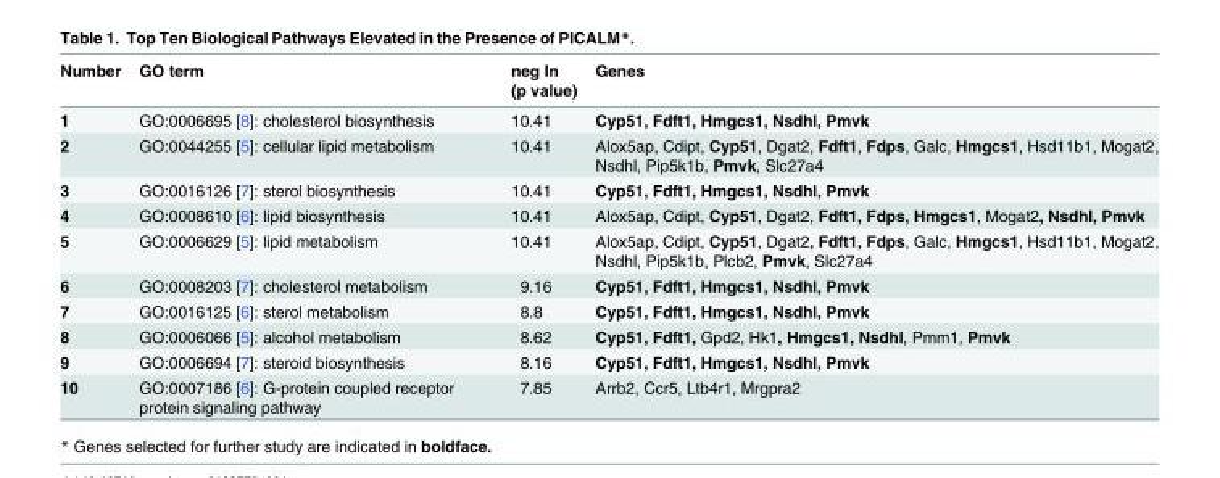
<table><thead><tr><td>Number</td><td>GO term</td><td>neg ln (p value)</td><td>Genes</td></tr></thead><tbody><tr><td>1</td><td>GO:0006695 [8]: cholesterol biosynthesis</td><td>10.41</td><td>Cyp51, Fdft1, Hmgcs1, Nsdhl, Pmvk</td></tr><tr><td>2</td><td>GO:0044255 [5]: cellular lipid metabolism</td><td>10.41</td><td>Alox5ap, Cdipt, Cyp51, Dgat2, Fdft1, Fdps, Galc, Hmgcs1, Hsd11b1, Mogat2, Nsdhl, Pip5k1b, Pmvk, Slc27a4</td></tr><tr><td>3</td><td>GO:0016126 [7]: sterol biosynthesis</td><td>10.41</td><td>Cyp51, Fdft1, Hmgcs1, Nsdhl, Pmvk</td></tr><tr><td>4</td><td>GO:0008610 [6]: lipid biosynthesis</td><td>10.41</td><td>Alox5ap, Cdipt, Cyp51, Dgat2, Fdft1, Fdps, Hmgcs1, Mogat2, Nsdhl, Pmvk</td></tr><tr><td>5</td><td>GO:0006629 [5]: lipid metabolism</td><td>10.41</td><td>Alox5ap, Cdipt, Cyp51, Dgat2, Fdft1, Fdps, Galc, Hmgcs1, Hsd11b1, Mogat2, Nsdhl, Pip5k1b, Plcb2, Pmvk, Slc27a4</td></tr><tr><td>6</td><td>GO:0008203 [7]: cholesterol metabolism</td><td>9.16</td><td>Cyp51, Fdft1, Hmgcs1, Nsdhl, Pmvk</td></tr><tr><td>7</td><td>GO:0016125 [6]: sterol metabolism</td><td>8.8</td><td>Cyp51, Fdft1, Hmgcs1, Nsdhl, Pmvk</td></tr><tr><td>8</td><td>GO:0006066 [5]: alcohol metabolism</td><td>8.62</td><td>Cyp51, Fdft1, Gpd2, Hk1, Hmgcs1, Nsdhl, Pmm1, Pmvk</td></tr><tr><td>9</td><td>GO:0006694 [7]: steroid biosynthesis</td><td>8.16</td><td>Cyp51, Fdft1, Hmgcs1, Nsdhl, Pmvk</td></tr><tr><td>10</td><td>GO:0007186 [6]: G-protein coupled receptor protein signaling pathway</td><td>7.85</td><td>Arrb2, Ccr5, Ltb4r1, Mrgpra2</td></tr></tbody></table>